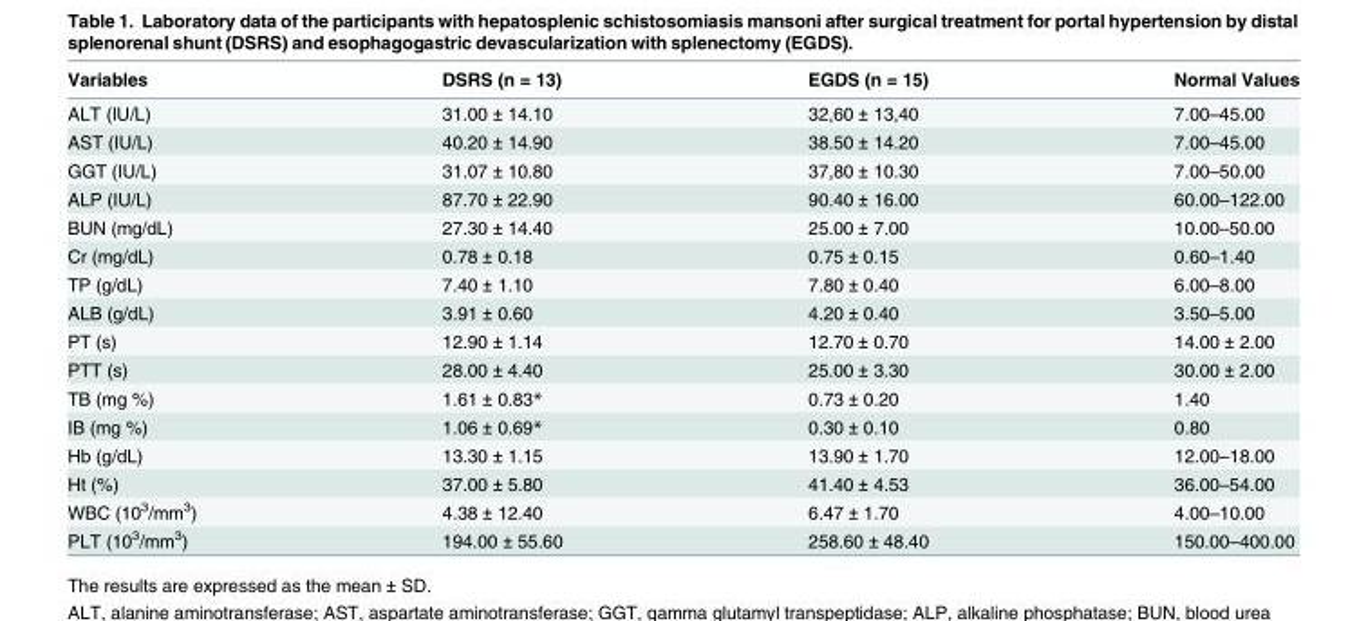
<table><thead><tr><td>Variables</td><td>DSRS (n = 13)</td><td>EGDS (n = 15)</td><td>Normal Values</td></tr></thead><tbody><tr><td>ALT (IU/L)</td><td>31.00 ± 14.10</td><td>32,60 ± 13,40</td><td>7.00–45.00</td></tr><tr><td>AST (IU/L)</td><td>40.20 ± 14.90</td><td>38.50 ± 14.20</td><td>7.00–45.00</td></tr><tr><td>GGT (IU/L)</td><td>31.07 ± 10.80</td><td>37,80 ± 10.30</td><td>7.00–50.00</td></tr><tr><td>ALP (IU/L)</td><td>87.70 ± 22.90</td><td>90.40 ± 16.00</td><td>60.00–122.00</td></tr><tr><td>BUN (mg/dL)</td><td>27.30 ± 14.40</td><td>25.00 ± 7.00</td><td>10.00–50.00</td></tr><tr><td>Cr (mg/dL)</td><td>0.78 ± 0.18</td><td>0.75 ± 0.15</td><td>0.60–1.40</td></tr><tr><td>TP (g/dL)</td><td>7.40 ± 1.10</td><td>7.80 ± 0.40</td><td>6.00–8.00</td></tr><tr><td>ALB (g/dL)</td><td>3.91 ± 0.60</td><td>4.20 ± 0.40</td><td>3.50–5.00</td></tr><tr><td>PT (s)</td><td>12.90 ± 1.14</td><td>12.70 ± 0.70</td><td>14.00 ± 2.00</td></tr><tr><td>PTT (s)</td><td>28.00 ± 4.40</td><td>25.00 ± 3.30</td><td>30.00 ± 2.00</td></tr><tr><td>TB (mg %)</td><td>1.61 ± 0.83*</td><td>0.73 ± 0.20</td><td>1.40</td></tr><tr><td>IB (mg %)</td><td>1.06 ± 0.69*</td><td>0.30 ± 0.10</td><td>0.80</td></tr><tr><td>Hb (g/dL)</td><td>13.30 ± 1.15</td><td>13.90 ± 1.70</td><td>12.00–18.00</td></tr><tr><td>Ht (%)</td><td>37.00 ± 5.80</td><td>41.40 ± 4.53</td><td>36.00–54.00</td></tr><tr><td>WBC (10<sup>3</sup>/mm<sup>3</sup>)</td><td>4.38 ± 12.40</td><td>6.47 ± 1.70</td><td>4.00–10.00</td></tr><tr><td>PLT (10<sup>3</sup>/mm<sup>3</sup>)</td><td>194.00 ± 55.60</td><td>258.60 ± 48.40</td><td>150.00–400.00</td></tr></tbody></table>